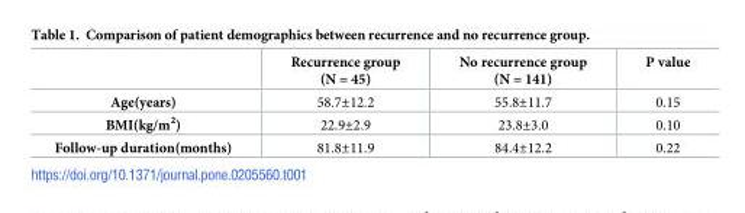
<table><thead><tr><td></td><td>Recurrence group (N = 45)</td><td>No recurrence group (N = 141)</td><td>P value</td></tr></thead><tbody><tr><td>Age(years)</td><td>58.7±12.2</td><td>55.8±11.7</td><td>0.15</td></tr><tr><td>BMI(kg/m<sup>2</sup>)</td><td>22.9±2.9</td><td>23.8±3.0</td><td>0.10</td></tr><tr><td>Follow-up duration(months)</td><td>81.8±11.9</td><td>84.4±12.2</td><td>0.22</td></tr></tbody></table>